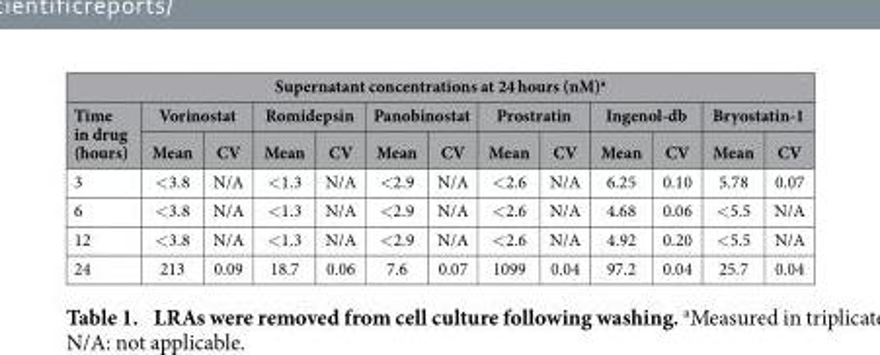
<table><thead><tr><td colspan="13">Supernatant concentrations at 24 hours (nM)<sup>a</sup></td></tr><tr><td rowspan="2">Time in drug (hours)</td><td colspan="2">Vorinostat</td><td colspan="2">Romidepsin</td><td colspan="2">Panobinostat</td><td colspan="2">Prostratin</td><td colspan="2">Ingenol-db</td><td colspan="2">Bryostatin-1</td></tr><tr><td>Mean</td><td>CV</td><td>Mean</td><td>CV</td><td>Mean</td><td>CV</td><td>Mean</td><td>CV</td><td>Mean</td><td>CV</td><td>Mean</td><td>CV</td></tr></thead><tbody><tr><td>3</td><td>&lt; 3.8</td><td>N/A</td><td>&lt; 1.3</td><td>N/A</td><td>&lt; 2.9</td><td>N/A</td><td>&lt; 2.6</td><td>N/A</td><td>6.25</td><td>0.10</td><td>5.78</td><td>0.07</td></tr><tr><td>6</td><td>&lt; 3.8</td><td>N/A</td><td>&lt; 1.3</td><td>N/A</td><td>&lt; 2.9</td><td>N/A</td><td>&lt; 2.6</td><td>N/A</td><td>4.68</td><td>0.06</td><td>&lt; 5.5</td><td>N/A</td></tr><tr><td>12</td><td>&lt; 3.8</td><td>N/A</td><td>&lt; 1.3</td><td>N/A</td><td>&lt; 2.9</td><td>N/A</td><td>&lt; 2.6</td><td>N/A</td><td>4.92</td><td>0.20</td><td>&lt; 5.5</td><td>N/A</td></tr><tr><td>24</td><td>213</td><td>0.09</td><td>18.7</td><td>0.06</td><td>7.6</td><td>0.07</td><td>1099</td><td>0.04</td><td>97.2</td><td>0.04</td><td>25.7</td><td>0.04</td></tr></tbody></table>